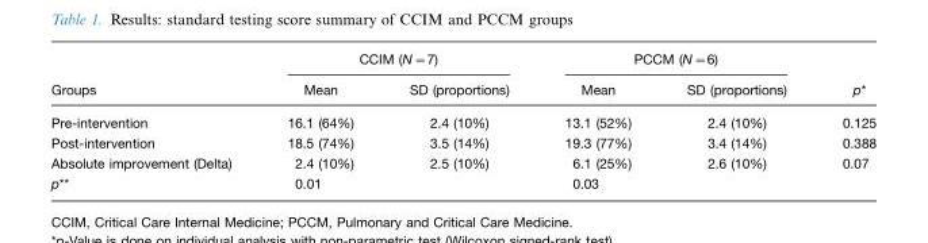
<table><thead><tr><td rowspan="2">Groups</td><td colspan="2">CCIM (N=7)</td><td colspan="2">PCCM (N=6)</td><td rowspan="2">p*</td></tr><tr><td>Mean</td><td>SD (proportions)</td><td>Mean</td><td>SD (proportions)</td></tr></thead><tbody><tr><td>Pre-intervention</td><td>16.1 (64%)</td><td>2.4 (10%)</td><td>13.1 (52%)</td><td>2.4 (10%)</td><td>0.125</td></tr><tr><td>Post-intervention</td><td>18.5 (74%)</td><td>3.5 (14%)</td><td>19.3 (77%)</td><td>3.4 (14%)</td><td>0.388</td></tr><tr><td>Absolute improvement (Delta)</td><td>2.4 (10%)</td><td>2.5 (10%)</td><td>6.1 (25%)</td><td>2.6 (10%)</td><td>0.07</td></tr><tr><td>p**</td><td>0.01</td><td></td><td>0.03</td><td></td><td></td></tr></tbody></table>